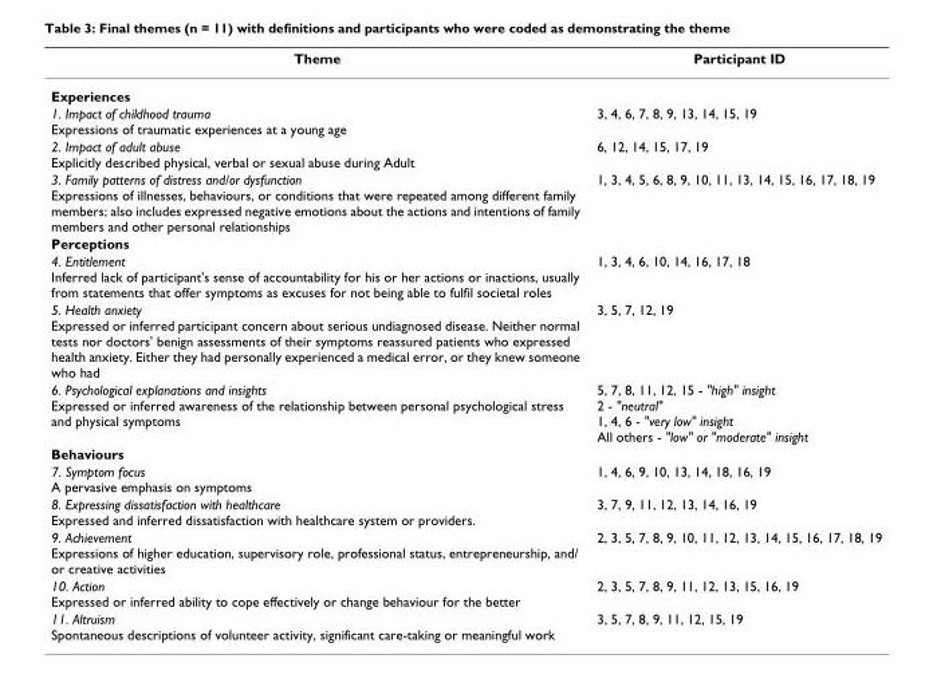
<table><thead><tr><td>Theme</td><td>Participant ID</td></tr></thead><tbody><tr><td colspan="2">Experiences</td></tr><tr><td>1. Impact of childhood trauma Expressions of traumatic experiences at a young age</td><td>3, 4, 6, 7, 8, 9, 13, 14, 15, 19</td></tr><tr><td>2. Impact of adult abuse Explicitly described physical, verbal or sexual abuse during Adult</td><td>6, 12, 14, 15, 17, 19</td></tr><tr><td>3. Family patterns of distress and/or dysfunction Expressions of illnesses, behaviours, or conditions that were repeated among different family members; also includes expressed negative emotions about the actions and intentions of family members and other personal relationships</td><td>1, 3, 4, 5, 6, 8, 9, 10, 11, 13, 14, 15, 16, 17, 18, 19</td></tr><tr><td colspan="2">Perceptions</td></tr><tr><td>4. Entitlement Inferred lack of participant&#x27;s sense of accountability for his or her actions or inactions, usually from statements that offer symptoms as excuses for not being able to fulfil societal roles</td><td>1, 3, 4, 6, 10, 14, 16, 17, 18</td></tr><tr><td>5. Health anxiety Expressed or inferred participant concern about serious undiagnosed disease. Neither normal tests nor doctors&#x27; benign assessments of their symptoms reassured patients who expressed health anxiety. Either they had personally experienced a medical error, or they knew someone who had</td><td>3, 5, 7, 12, 19</td></tr><tr><td>6. Psychological explanations and insights Expressed or inferred awareness of the relationship between personal psychological stress and physical symptoms</td><td>5, 7, 8, 11, 12, 15 - &quot;high&quot; insight 2 - &quot;neutral&quot; 1, 4, 6 - &quot;very low&quot; insight All others - &quot;low&quot; or &quot;moderate&quot; insight</td></tr><tr><td colspan="2">Behaviours</td></tr><tr><td>7. Symptom focus A pervasive emphasis on symptoms</td><td>1, 4, 6, 9, 10, 13, 14, 18, 16, 19</td></tr><tr><td>8. Expressing dissatisfaction with healthcare Expressed and inferred dissatisfaction with healthcare system or providers.</td><td>3, 7, 9, 11, 12, 13, 14, 16, 19</td></tr><tr><td>9. Achievement Expressions of higher education, supervisory role, professional status, entrepreneurship, and/ or creative activities</td><td>2, 3, 5, 7, 8, 9, 10, 11, 12, 13, 14, 15, 16, 17, 18, 19</td></tr><tr><td>10. Action Expressed or inferred ability to cope effectively or change behaviour for the better</td><td>2, 3, 5, 7, 8, 9, 11, 12, 13, 15, 16, 19</td></tr><tr><td>11. Altruism Spontaneous descriptions of volunteer activity, significant care-taking or meaningful work</td><td>3, 5, 7, 8, 9, 11, 12, 15, 19</td></tr></tbody></table>